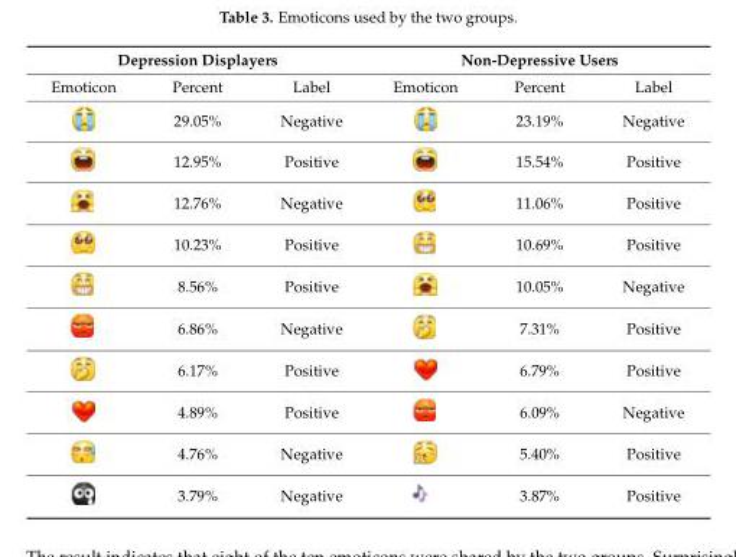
<table><thead><tr><td colspan="3">Depression Displayers</td><td colspan="3">Non-Depressive Users</td></tr><tr><td>Emoticon</td><td>Percent</td><td>Label</td><td>Emoticon</td><td>Percent</td><td>Label</td></tr></thead><tbody><tr><td></td><td>29.05%</td><td>Negative</td><td></td><td>23.19%</td><td>Negative</td></tr><tr><td></td><td>12.95%</td><td>Positive</td><td></td><td>15.54%</td><td>Positive</td></tr><tr><td></td><td>12.76%</td><td>Negative</td><td></td><td>11.06%</td><td>Positive</td></tr><tr><td></td><td>10.23%</td><td>Positive</td><td></td><td>10.69%</td><td>Positive</td></tr><tr><td></td><td>8.56%</td><td>Positive</td><td></td><td>10.05%</td><td>Negative</td></tr><tr><td></td><td>6.86%</td><td>Negative</td><td></td><td>7.31%</td><td>Positive</td></tr><tr><td></td><td>6.17%</td><td>Positive</td><td></td><td>6.79%</td><td>Positive</td></tr><tr><td></td><td>4.89%</td><td>Positive</td><td></td><td>6.09%</td><td>Negative</td></tr><tr><td></td><td>4.76%</td><td>Negative</td><td></td><td>5.40%</td><td>Positive</td></tr><tr><td></td><td>3.79%</td><td>Negative</td><td></td><td>3.87%</td><td>Positive</td></tr></tbody></table>